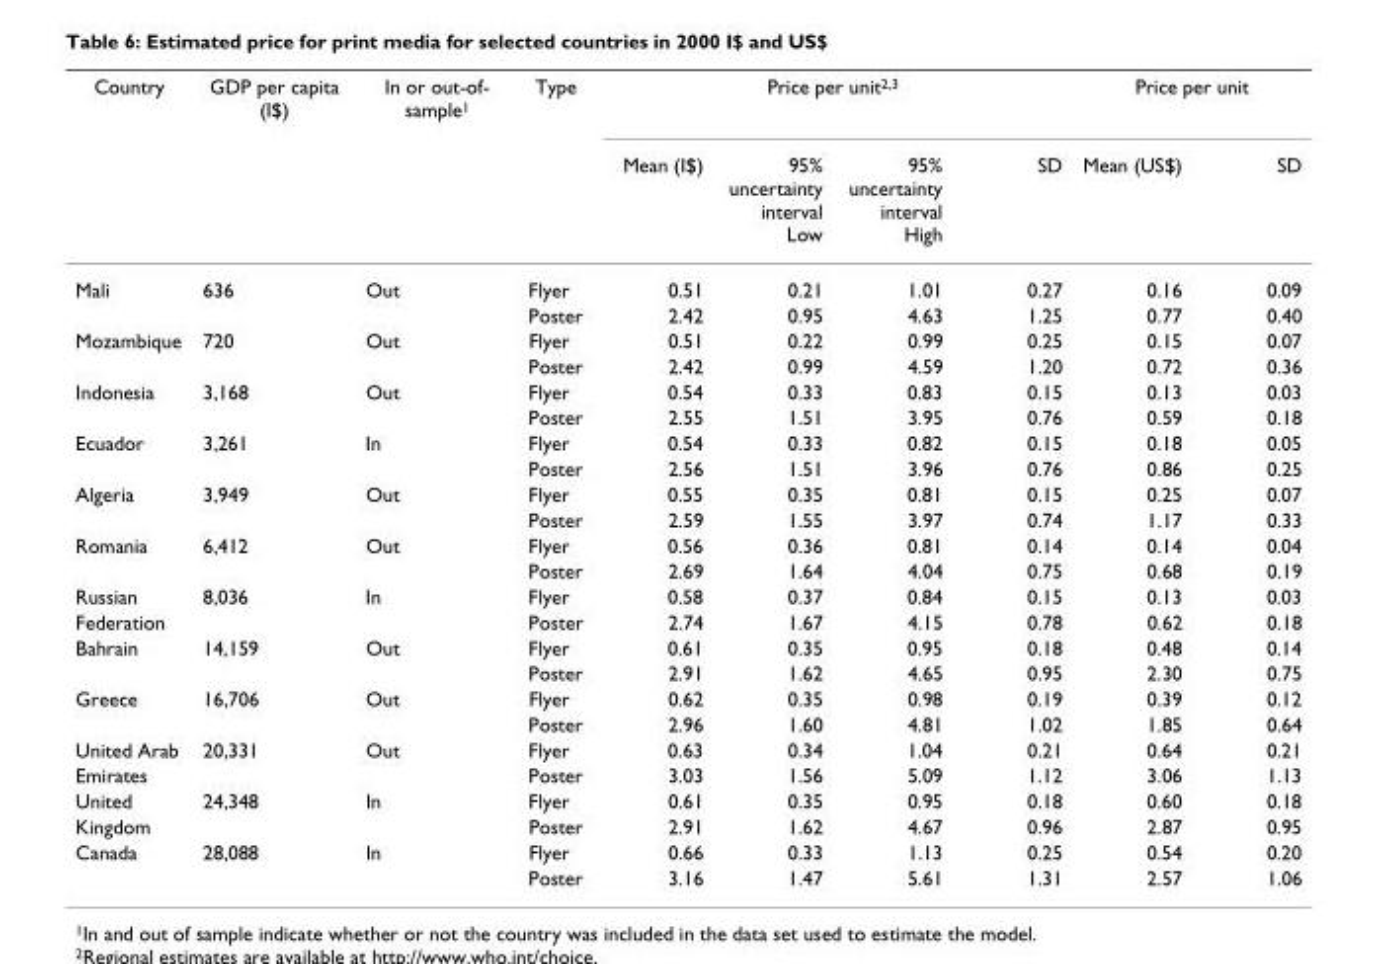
<table><thead><tr><td rowspan="2">Country</td><td rowspan="2">GDP per capita (I$)</td><td rowspan="2">In or out-of- sample<sup>1</sup></td><td rowspan="2">Type</td><td colspan="4">Price per unit<sup>2,3</sup></td><td colspan="2">Price per unit</td></tr><tr><td>Mean (I$)</td><td>95% uncertainty interval Low</td><td>95% uncertainty interval High</td><td>SD</td><td>Mean (US$)</td><td>SD</td></tr></thead><tbody><tr><td rowspan="2">Mali</td><td>636</td><td>Out</td><td>Flyer</td><td>0.51</td><td>0.21</td><td>1.01</td><td>0.27</td><td>0.16</td><td>0.09</td></tr><tr><td></td><td></td><td>Poster</td><td>2.42</td><td>0.95</td><td>4.63</td><td>1.25</td><td>0.77</td><td>0.40</td></tr><tr><td rowspan="2">Mozambique</td><td>720</td><td>Out</td><td>Flyer</td><td>0.51</td><td>0.22</td><td>0.99</td><td>0.25</td><td>0.15</td><td>0.07</td></tr><tr><td></td><td></td><td>Poster</td><td>2.42</td><td>0.99</td><td>4.59</td><td>1.20</td><td>0.72</td><td>0.36</td></tr><tr><td rowspan="2">Indonesia</td><td>3,168</td><td>Out</td><td>Flyer</td><td>0.54</td><td>0.33</td><td>0.83</td><td>0.15</td><td>0.13</td><td>0.03</td></tr><tr><td></td><td></td><td>Poster</td><td>2.55</td><td>1.51</td><td>3.95</td><td>0.76</td><td>0.59</td><td>0.18</td></tr><tr><td rowspan="2">Ecuador</td><td>3,261</td><td>In</td><td>Flyer</td><td>0.54</td><td>0.33</td><td>0.82</td><td>0.15</td><td>0.18</td><td>0.05</td></tr><tr><td></td><td></td><td>Poster</td><td>2.56</td><td>1.51</td><td>3.96</td><td>0.76</td><td>0.86</td><td>0.25</td></tr><tr><td rowspan="2">Algeria</td><td>3,949</td><td>Out</td><td>Flyer</td><td>0.55</td><td>0.35</td><td>0.81</td><td>0.15</td><td>0.25</td><td>0.07</td></tr><tr><td></td><td></td><td>Poster</td><td>2.59</td><td>1.55</td><td>3.97</td><td>0.74</td><td>1.17</td><td>0.33</td></tr><tr><td rowspan="2">Romania</td><td>6,412</td><td>Out</td><td>Flyer</td><td>0.56</td><td>0.36</td><td>0.81</td><td>0.14</td><td>0.14</td><td>0.04</td></tr><tr><td></td><td></td><td>Poster</td><td>2.69</td><td>1.64</td><td>4.04</td><td>0.75</td><td>0.68</td><td>0.19</td></tr><tr><td>Russian</td><td>8,036</td><td>In</td><td>Flyer</td><td>0.58</td><td>0.37</td><td>0.84</td><td>0.15</td><td>0.13</td><td>0.03</td></tr><tr><td>Federation</td><td></td><td></td><td>Poster</td><td>2.74</td><td>1.67</td><td>4.15</td><td>0.78</td><td>0.62</td><td>0.18</td></tr><tr><td rowspan="2">Bahrain</td><td>14,159</td><td>Out</td><td>Flyer</td><td>0.61</td><td>0.35</td><td>0.95</td><td>0.18</td><td>0.48</td><td>0.14</td></tr><tr><td></td><td></td><td>Poster</td><td>2.91</td><td>1.62</td><td>4.65</td><td>0.95</td><td>2.30</td><td>0.75</td></tr><tr><td rowspan="2">Greece</td><td>16,706</td><td>Out</td><td>Flyer</td><td>0.62</td><td>0.35</td><td>0.98</td><td>0.19</td><td>0.39</td><td>0.12</td></tr><tr><td></td><td></td><td>Poster</td><td>2.96</td><td>1.60</td><td>4.81</td><td>1.02</td><td>1.85</td><td>0.64</td></tr><tr><td>United Arab</td><td>20,331</td><td>Out</td><td>Flyer</td><td>0.63</td><td>0.34</td><td>1.04</td><td>0.21</td><td>0.64</td><td>0.21</td></tr><tr><td>Emirates</td><td></td><td></td><td>Poster</td><td>3.03</td><td>1.56</td><td>5.09</td><td>1.12</td><td>3.06</td><td>1.13</td></tr><tr><td>United</td><td>24,348</td><td>In</td><td>Flyer</td><td>0.61</td><td>0.35</td><td>0.95</td><td>0.18</td><td>0.60</td><td>0.18</td></tr><tr><td>Kingdom</td><td></td><td></td><td>Poster</td><td>2.91</td><td>1.62</td><td>4.67</td><td>0.96</td><td>2.87</td><td>0.95</td></tr><tr><td rowspan="2">Canada</td><td>28,088</td><td>In</td><td>Flyer</td><td>0.66</td><td>0.33</td><td>1.13</td><td>0.25</td><td>0.54</td><td>0.20</td></tr><tr><td></td><td></td><td>Poster</td><td>3.16</td><td>1.47</td><td>5.61</td><td>1.31</td><td>2.57</td><td>1.06</td></tr></tbody></table>